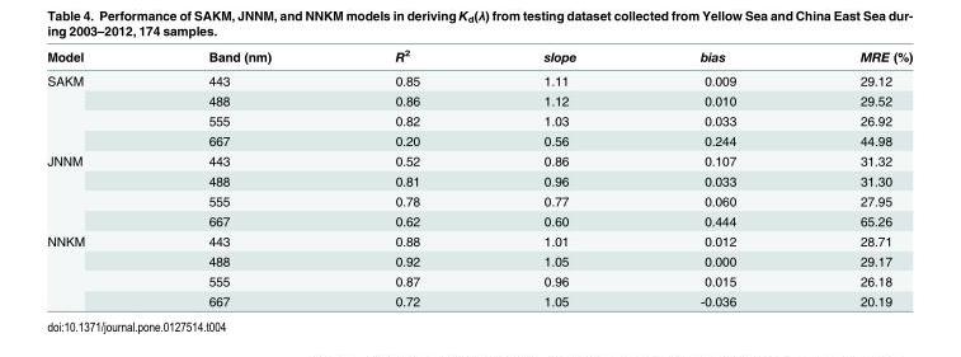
<table><thead><tr><td>Model</td><td>Band (nm)</td><td>R<sup>2</sup></td><td>slope</td><td>bias</td><td>MRE (%)</td></tr></thead><tbody><tr><td rowspan="4">SAKM</td><td>443</td><td>0.85</td><td>1.11</td><td>0.009</td><td>29.12</td></tr><tr><td>488</td><td>0.86</td><td>1.12</td><td>0.010</td><td>29.52</td></tr><tr><td>555</td><td>0.82</td><td>1.03</td><td>0.033</td><td>26.92</td></tr><tr><td>667</td><td>0.20</td><td>0.56</td><td>0.244</td><td>44.98</td></tr><tr><td rowspan="4">JNNM</td><td>443</td><td>0.52</td><td>0.86</td><td>0.107</td><td>31.32</td></tr><tr><td>488</td><td>0.81</td><td>0.96</td><td>0.033</td><td>31.30</td></tr><tr><td>555</td><td>0.78</td><td>0.77</td><td>0.060</td><td>27.95</td></tr><tr><td>667</td><td>0.62</td><td>0.60</td><td>0.444</td><td>65.26</td></tr><tr><td rowspan="4">NNKM</td><td>443</td><td>0.88</td><td>1.01</td><td>0.012</td><td>28.71</td></tr><tr><td>488</td><td>0.92</td><td>1.05</td><td>0.000</td><td>29.17</td></tr><tr><td>555</td><td>0.87</td><td>0.96</td><td>0.015</td><td>26.18</td></tr><tr><td>667</td><td>0.72</td><td>1.05</td><td>-0.036</td><td>20.19</td></tr></tbody></table>